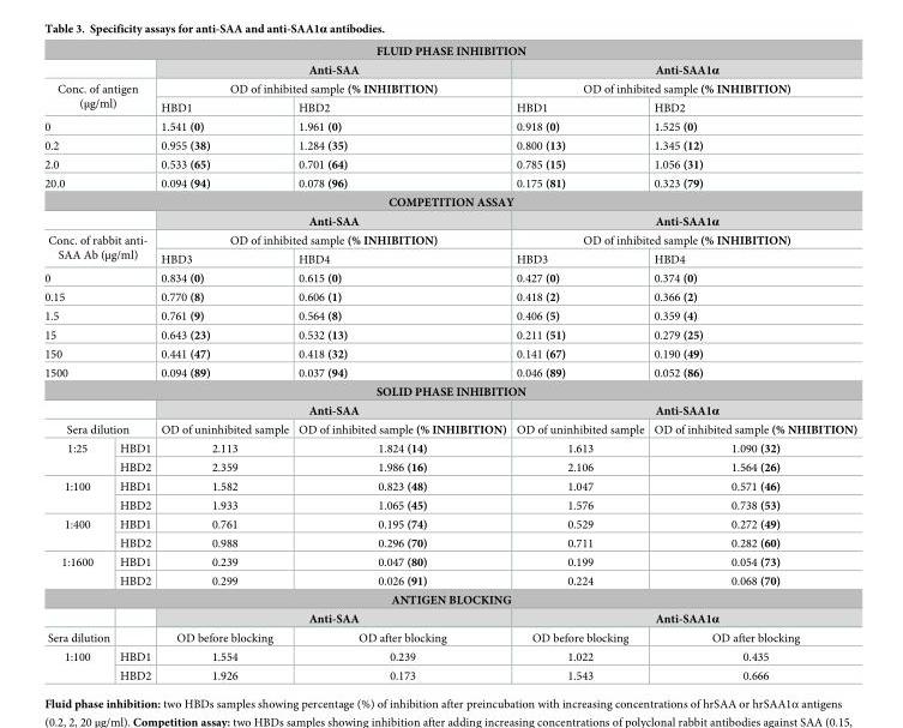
<table><tbody><tr><td colspan="6">FLUID PHASE INHIBITION</td></tr><tr><td colspan="2"></td><td colspan="2">Anti-SAA</td><td colspan="2">Anti-SAA1α</td></tr><tr><td rowspan="2" colspan="2">Conc. of antigen (μg/ml)</td><td colspan="2">OD of inhibited sample (% INHIBITION)</td><td colspan="2">OD of inhibited sample (% INHIBITION)</td></tr><tr><td>HBD1</td><td>HBD2</td><td>HBD1</td><td>HBD2</td></tr><tr><td colspan="2">0</td><td>1.541 (0)</td><td>1.961 (0)</td><td>0.918 (0)</td><td>1.525 (0)</td></tr><tr><td colspan="2">0.2</td><td>0.955 (38)</td><td>1.284 (35)</td><td>0.800 (13)</td><td>1.345 (12)</td></tr><tr><td colspan="2">2.0</td><td>0.533 (65)</td><td>0.701 (64)</td><td>0.785 (15)</td><td>1.056 (31)</td></tr><tr><td colspan="2">20.0</td><td>0.094 (94)</td><td>0.078 (96)</td><td>0.175 (81)</td><td>0.323 (79)</td></tr><tr><td colspan="6">COMPETITION ASSAY</td></tr><tr><td colspan="2"></td><td colspan="2">Anti-SAA</td><td colspan="2">Anti-SAA1α</td></tr><tr><td rowspan="2" colspan="2">Conc. of rabbit anti- SAA Ab (μg/ml)</td><td colspan="2">OD of inhibited sample (% INHIBITION)</td><td colspan="2">OD of inhibited sample (% INHIBITION)</td></tr><tr><td>HBD3</td><td>HBD4</td><td>HBD3</td><td>HBD4</td></tr><tr><td colspan="2">0</td><td>0.834 (0)</td><td>0.615 (0)</td><td>0.427 (0)</td><td>0.374 (0)</td></tr><tr><td colspan="2">0.15</td><td>0.770 (8)</td><td>0.606 (1)</td><td>0.418 (2)</td><td>0.366 (2)</td></tr><tr><td colspan="2">1.5</td><td>0.761 (9)</td><td>0.564 (8)</td><td>0.406 (5)</td><td>0.359 (4)</td></tr><tr><td colspan="2">15</td><td>0.643 (23)</td><td>0.532 (13)</td><td>0.211 (51)</td><td>0.279 (25)</td></tr><tr><td colspan="2">150</td><td>0.441 (47)</td><td>0.418 (32)</td><td>0.141 (67)</td><td>0.190 (49)</td></tr><tr><td colspan="2">1500</td><td>0.094 (89)</td><td>0.037 (94)</td><td>0.046 (89)</td><td>0.052 (86)</td></tr><tr><td colspan="6">SOLID PHASE INHIBITION</td></tr><tr><td colspan="2"></td><td colspan="2">Anti-SAA</td><td colspan="2">Anti-SAA1α</td></tr><tr><td colspan="2">Sera dilution</td><td>OD of uninhibited sample</td><td>OD of inhibited sample (% INHIBITION)</td><td>OD of uninhibited sample</td><td>OD of inhibited sample (% NHIBITION)</td></tr><tr><td rowspan="2">1:25</td><td>HBD1</td><td>2.113</td><td>1.824 (14)</td><td>1.613</td><td>1.090 (32)</td></tr><tr><td>HBD2</td><td>2.359</td><td>1.986 (16)</td><td>2.106</td><td>1.564 (26)</td></tr><tr><td rowspan="2">1:100</td><td>HBD1</td><td>1.582</td><td>0.823 (48)</td><td>1.047</td><td>0.571 (46)</td></tr><tr><td>HBD2</td><td>1.933</td><td>1.065 (45)</td><td>1.576</td><td>0.738 (53)</td></tr><tr><td rowspan="2">1:400</td><td>HBD1</td><td>0.761</td><td>0.195 (74)</td><td>0.529</td><td>0.272 (49)</td></tr><tr><td>HBD2</td><td>0.988</td><td>0.296 (70)</td><td>0.711</td><td>0.282 (60)</td></tr><tr><td rowspan="2">1:1600</td><td>HBD1</td><td>0.239</td><td>0.047 (80)</td><td>0.199</td><td>0.054 (73)</td></tr><tr><td>HBD2</td><td>0.299</td><td>0.026 (91)</td><td>0.224</td><td>0.068 (70)</td></tr><tr><td colspan="6">ANTIGEN BLOCKING</td></tr><tr><td></td><td></td><td colspan="2">Anti-SAA</td><td colspan="2">Anti-SAA1α</td></tr><tr><td>Sera dilution</td><td></td><td>OD before blocking</td><td>OD after blocking</td><td>OD before blocking</td><td>OD after blocking</td></tr><tr><td rowspan="2">1:100</td><td>HBD1</td><td>1.554</td><td>0.239</td><td>1.022</td><td>0.435</td></tr><tr><td>HBD2</td><td>1.926</td><td>0.173</td><td>1.543</td><td>0.666</td></tr></tbody></table>